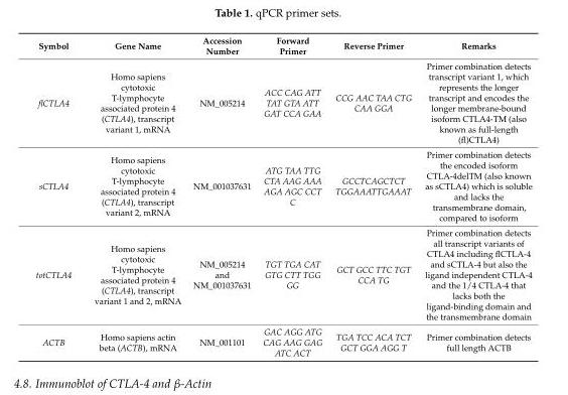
<table><thead><tr><td>Symbol</td><td>Gene Name</td><td>Accession Number</td><td>Forward Primer</td><td>Reverse Primer</td><td>Remarks</td></tr></thead><tbody><tr><td>flCTLA4</td><td>Homo sapiens cytotoxic T-lymphocyte associated protein 4 (CTLA4), transcript variant 1, mRNA</td><td>NM_005214</td><td>ACC CAG ATT TAT GTA ATT GAT CCA GAA</td><td>CCG AAC TAA CTG CAA GGA</td><td>Primer combination detects transcript variant 1, which represents the longer transcript and encodes the longer membrane-bound isoform CTLA4-TM (also known as full-length (fl)CTLA4)</td></tr><tr><td>sCTLA4</td><td>Homo sapiens cytotoxic T-lymphocyte associated protein 4 (CTLA4), transcript variant 2, mRNA</td><td>NM_001037631</td><td>ATG TAA TTG CTA AAG AAA AGA AGC CCT C</td><td>GCCTCAGCTCT TGGAAATTGAAAT</td><td>Primer combination detects the encoded isoform CTLA-4delTM (also known as sCTLA4) which is soluble and lacks the transmembrane domain, compared to isoform</td></tr><tr><td>totCTLA4</td><td>Homo sapiens cytotoxic T-lymphocyte associated protein 4 (CTLA4), transcript variant 1 and 2, mRNA</td><td>NM_005214 and NM_001037631</td><td>TGT TGA CAT GTG CTT TGG GG</td><td>GCT GCC TTC TGT CCA TG</td><td>Primer combination detects all transcript variants of CTLA4 including flCTLA-4 and sCTLA-4 but also the ligand independent CTLA-4 and the 1/4 CTLA-4 that lacks both the ligand-binding domain and the transmembrane domain</td></tr><tr><td>ACTB</td><td>Homo sapiens actin beta (ACTB), mRNA</td><td>NM_001101</td><td>GAC AGG ATG CAG AAG GAG ATC ACT</td><td>TGA TCC ACA TCT GCT GGA AGG T</td><td>Primer combination detects full length ACTB</td></tr></tbody></table>